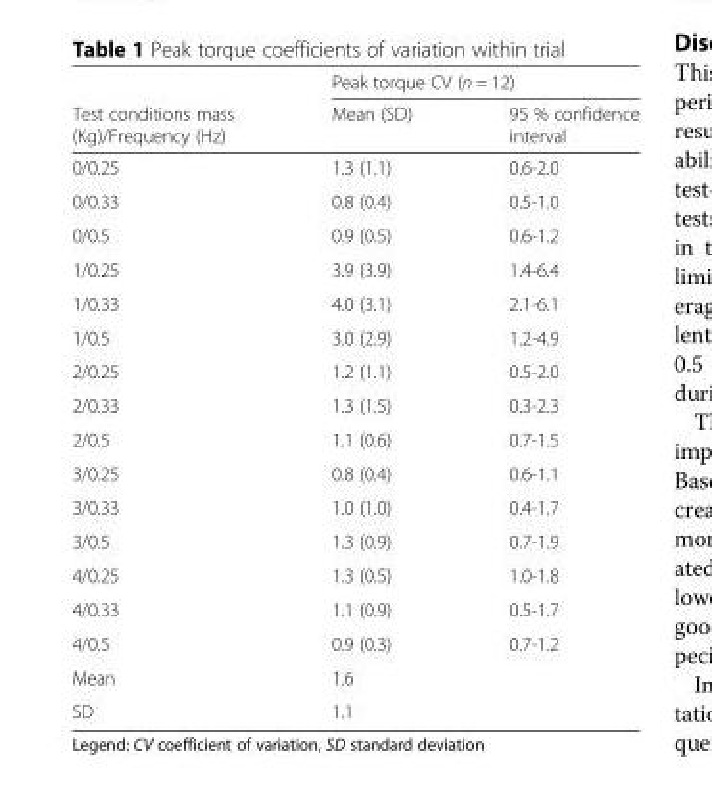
<table><thead><tr><td rowspan="2">Test conditions mass (Kg)/Frequency (Hz)</td><td colspan="2">Peak torque CV (n = 12)</td></tr><tr><td>Mean (SD)</td><td>95 % confidence interval</td></tr></thead><tbody><tr><td>0/0.25</td><td>1.3 (1.1)</td><td>0.6-2.0</td></tr><tr><td>0/0.33</td><td>0.8 (0.4)</td><td>0.5-1.0</td></tr><tr><td>0/0.5</td><td>0.9 (0.5)</td><td>0.6-1.2</td></tr><tr><td>1/0.25</td><td>3.9 (3.9)</td><td>1.4-6.4</td></tr><tr><td>1/0.33</td><td>4.0 (3.1)</td><td>2.1-6.1</td></tr><tr><td>1/0.5</td><td>3.0 (2.9)</td><td>1.2-4.9</td></tr><tr><td>2/0.25</td><td>1.2 (1.1)</td><td>0.5-2.0</td></tr><tr><td>2/0.33</td><td>1.3 (1.5)</td><td>0.3-2.3</td></tr><tr><td>2/0.5</td><td>1.1 (0.6)</td><td>0.7-1.5</td></tr><tr><td>3/0.25</td><td>0.8 (0.4)</td><td>0.6-1.1</td></tr><tr><td>3/0.33</td><td>1.0 (1.0)</td><td>0.4-1.7</td></tr><tr><td>3/0.5</td><td>1.3 (0.9)</td><td>0.7-1.9</td></tr><tr><td>4/0.25</td><td>1.3 (0.5)</td><td>1.0-1.8</td></tr><tr><td>4/0.33</td><td>1.1 (0.9)</td><td>0.5-1.7</td></tr><tr><td>4/0.5</td><td>0.9 (0.3)</td><td>0.7-1.2</td></tr><tr><td>Mean</td><td>1.6</td><td rowspan="2"></td></tr><tr><td>SD</td><td>1.1</td></tr></tbody></table>